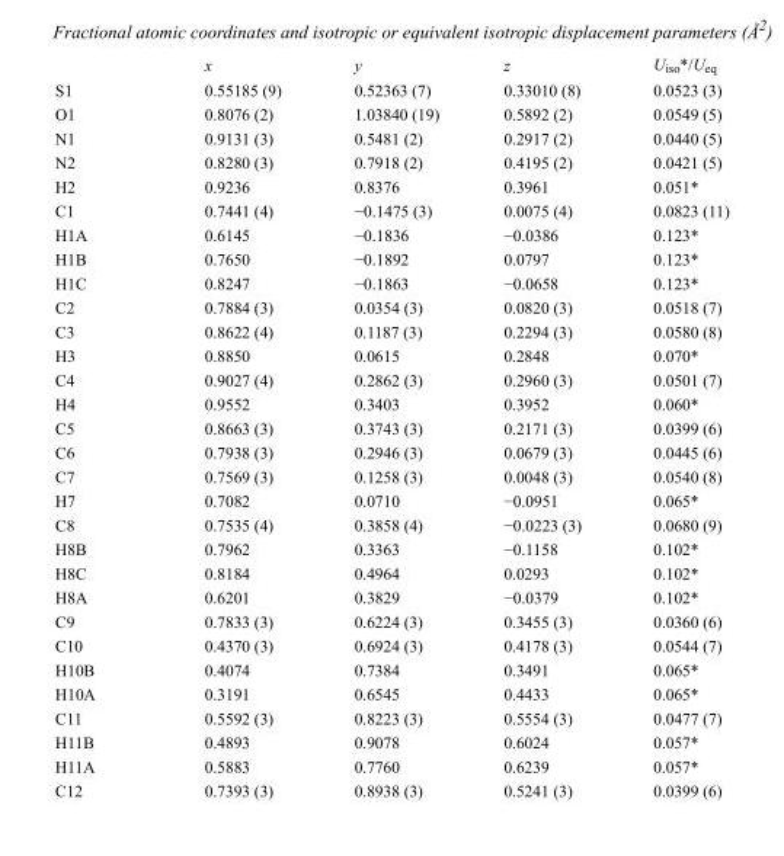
<table><thead><tr><td></td><td>x</td><td>y</td><td>z</td><td>U<sub>iso</sub>*/U<sub>eq</sub></td></tr></thead><tbody><tr><td>S1</td><td>0.55185 (9)</td><td>0.52363 (7)</td><td>0.33010 (8)</td><td>0.0523 (3)</td></tr><tr><td>O1</td><td>0.8076 (2)</td><td>1.03840 (19)</td><td>0.5892 (2)</td><td>0.0549 (5)</td></tr><tr><td>N1</td><td>0.9131 (3)</td><td>0.5481 (2)</td><td>0.2917 (2)</td><td>0.0440 (5)</td></tr><tr><td>N2</td><td>0.8280 (3)</td><td>0.7918 (2)</td><td>0.4195 (2)</td><td>0.0421 (5)</td></tr><tr><td>H2</td><td>0.9236</td><td>0.8376</td><td>0.3961</td><td>0.051*</td></tr><tr><td>C1</td><td>0.7441 (4)</td><td>−0.1475 (3)</td><td>0.0075 (4)</td><td>0.0823 (11)</td></tr><tr><td>H1A</td><td>0.6145</td><td>−0.1836</td><td>−0.0386</td><td>0.123*</td></tr><tr><td>H1B</td><td>0.7650</td><td>−0.1892</td><td>0.0797</td><td>0.123*</td></tr><tr><td>H1C</td><td>0.8247</td><td>−0.1863</td><td>−0.0658</td><td>0.123*</td></tr><tr><td>C2</td><td>0.7884 (3)</td><td>0.0354 (3)</td><td>0.0820 (3)</td><td>0.0518 (7)</td></tr><tr><td>C3</td><td>0.8622 (4)</td><td>0.1187 (3)</td><td>0.2294 (3)</td><td>0.0580 (8)</td></tr><tr><td>H3</td><td>0.8850</td><td>0.0615</td><td>0.2848</td><td>0.070*</td></tr><tr><td>C4</td><td>0.9027 (4)</td><td>0.2862 (3)</td><td>0.2960 (3)</td><td>0.0501 (7)</td></tr><tr><td>H4</td><td>0.9552</td><td>0.3403</td><td>0.3952</td><td>0.060*</td></tr><tr><td>C5</td><td>0.8663 (3)</td><td>0.3743 (3)</td><td>0.2171 (3)</td><td>0.0399 (6)</td></tr><tr><td>C6</td><td>0.7938 (3)</td><td>0.2946 (3)</td><td>0.0679 (3)</td><td>0.0445 (6)</td></tr><tr><td>C7</td><td>0.7569 (3)</td><td>0.1258 (3)</td><td>0.0048 (3)</td><td>0.0540 (8)</td></tr><tr><td>H7</td><td>0.7082</td><td>0.0710</td><td>−0.0951</td><td>0.065*</td></tr><tr><td>C8</td><td>0.7535 (4)</td><td>0.3858 (4)</td><td>−0.0223 (3)</td><td>0.0680 (9)</td></tr><tr><td>H8B</td><td>0.7962</td><td>0.3363</td><td>−0.1158</td><td>0.102*</td></tr><tr><td>H8C</td><td>0.8184</td><td>0.4964</td><td>0.0293</td><td>0.102*</td></tr><tr><td>H8A</td><td>0.6201</td><td>0.3829</td><td>−0.0379</td><td>0.102*</td></tr><tr><td>C9</td><td>0.7833 (3)</td><td>0.6224 (3)</td><td>0.3455 (3)</td><td>0.0360 (6)</td></tr><tr><td>C10</td><td>0.4370 (3)</td><td>0.6924 (3)</td><td>0.4178 (3)</td><td>0.0544 (7)</td></tr><tr><td>H10B</td><td>0.4074</td><td>0.7384</td><td>0.3491</td><td>0.065*</td></tr><tr><td>H10A</td><td>0.3191</td><td>0.6545</td><td>0.4433</td><td>0.065*</td></tr><tr><td>C11</td><td>0.5592 (3)</td><td>0.8223 (3)</td><td>0.5554 (3)</td><td>0.0477 (7)</td></tr><tr><td>H11B</td><td>0.4893</td><td>0.9078</td><td>0.6024</td><td>0.057*</td></tr><tr><td>H11A</td><td>0.5883</td><td>0.7760</td><td>0.6239</td><td>0.057*</td></tr><tr><td>C12</td><td>0.7393 (3)</td><td>0.8938 (3)</td><td>0.5241 (3)</td><td>0.0399 (6)</td></tr></tbody></table>